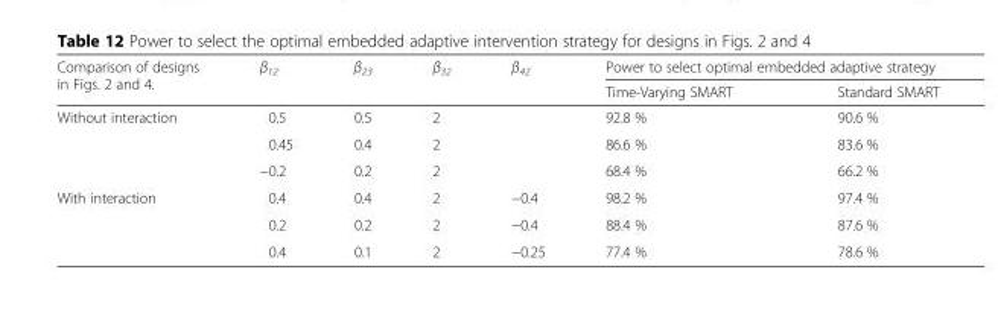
<table><thead><tr><td rowspan="2">Comparison of designs in Figs. 2 and 4.</td><td rowspan="2">β<sub>12</sub></td><td rowspan="2">β<sub>23</sub></td><td rowspan="2">β<sub>32</sub></td><td rowspan="2">β<sub>42</sub></td><td colspan="2">Power to select optimal embedded adaptive strategy</td></tr><tr><td>Time-Varying SMART</td><td>Standard SMART</td></tr></thead><tbody><tr><td rowspan="3">Without interaction</td><td>0.5</td><td>0.5</td><td>2</td><td></td><td>92.8 %</td><td>90.6 %</td></tr><tr><td>0.45</td><td>0.4</td><td>2</td><td></td><td>86.6 %</td><td>83.6 %</td></tr><tr><td>−0.2</td><td>0.2</td><td>2</td><td></td><td>68.4 %</td><td>66.2 %</td></tr><tr><td rowspan="3">With interaction</td><td>0.4</td><td>0.4</td><td>2</td><td>−0.4</td><td>98.2 %</td><td>97.4 %</td></tr><tr><td>0.2</td><td>0.2</td><td>2</td><td>−0.4</td><td>88.4 %</td><td>87.6 %</td></tr><tr><td>0.4</td><td>0.1</td><td>2</td><td>−0.25</td><td>77.4 %</td><td>78.6 %</td></tr></tbody></table>